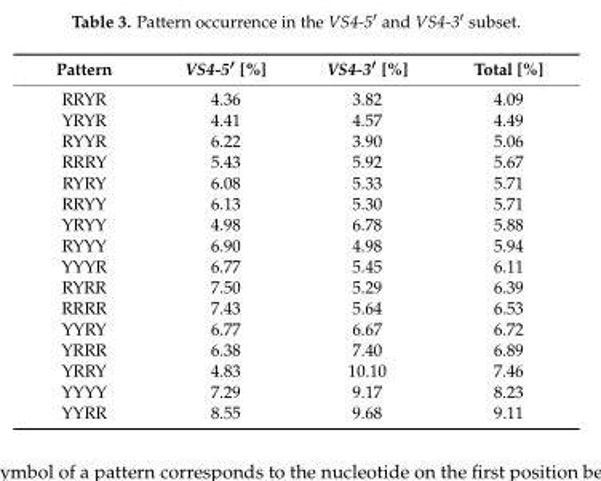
<table><thead><tr><td>Pattern</td><td>VS4-5′ [%]</td><td>VS4-3′ [%]</td><td>Total [%]</td></tr></thead><tbody><tr><td>RRYR</td><td>4.36</td><td>3.82</td><td>4.09</td></tr><tr><td>YRYR</td><td>4.41</td><td>4.57</td><td>4.49</td></tr><tr><td>RYYR</td><td>6.22</td><td>3.90</td><td>5.06</td></tr><tr><td>RRRY</td><td>5.43</td><td>5.92</td><td>5.67</td></tr><tr><td>RYRY</td><td>6.08</td><td>5.33</td><td>5.71</td></tr><tr><td>RRYY</td><td>6.13</td><td>5.30</td><td>5.71</td></tr><tr><td>YRYY</td><td>4.98</td><td>6.78</td><td>5.88</td></tr><tr><td>RYYY</td><td>6.90</td><td>4.98</td><td>5.94</td></tr><tr><td>YYYR</td><td>6.77</td><td>5.45</td><td>6.11</td></tr><tr><td>RYRR</td><td>7.50</td><td>5.29</td><td>6.39</td></tr><tr><td>RRRR</td><td>7.43</td><td>5.64</td><td>6.53</td></tr><tr><td>YYRY</td><td>6.77</td><td>6.67</td><td>6.72</td></tr><tr><td>YRRR</td><td>6.38</td><td>7.40</td><td>6.89</td></tr><tr><td>YRRY</td><td>4.83</td><td>10.10</td><td>7.46</td></tr><tr><td>YYYY</td><td>7.29</td><td>9.17</td><td>8.23</td></tr><tr><td>YYRR</td><td>8.55</td><td>9.68</td><td>9.11</td></tr></tbody></table>